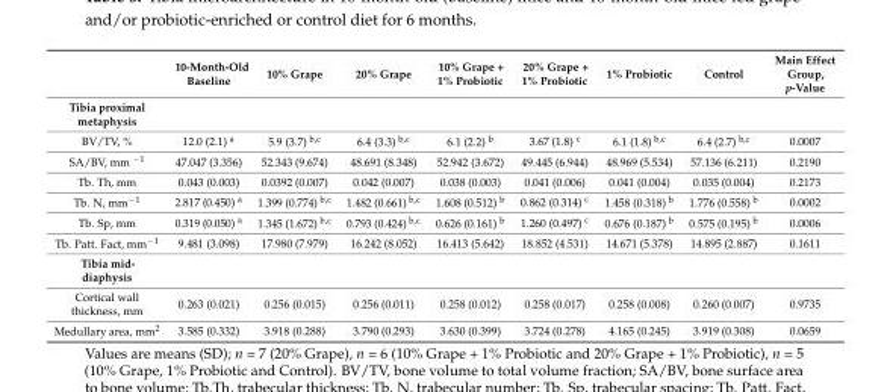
<table><thead><tr><td></td><td>10-Month-Old Baseline</td><td>10% Grape</td><td>20% Grape</td><td>10% Grape + 1% Probiotic</td><td>20% Grape + 1% Probiotic</td><td>1% Probiotic</td><td>Control</td><td>Main Effect Group, p-Value</td></tr></thead><tbody><tr><td colspan="9">Tibia proximal metaphysis</td></tr><tr><td>BV/TV, %</td><td>12.0 (2.1) <sup>a</sup></td><td>5.9 (3.7) <sup>b,c</sup></td><td>6.4 (3.3) <sup>b,c</sup></td><td>6.1 (2.2) <sup>b</sup></td><td>3.67 (1.8) <sup>c</sup></td><td>6.1 (1.8) <sup>b,c</sup></td><td>6.4 (2.7) <sup>b,c</sup></td><td>0.0007</td></tr><tr><td>SA/BV, mm <sup>−1</sup></td><td>47.047 (3.356)</td><td>52.343 (9.674)</td><td>48.691 (8.348)</td><td>52.942 (3.672)</td><td>49.445 (6.944)</td><td>48.969 (5.534)</td><td>57.136 (6.211)</td><td>0.2190</td></tr><tr><td>Tb. Th, mm</td><td>0.043 (0.003)</td><td>0.0392 (0.007)</td><td>0.042 (0.007)</td><td>0.038 (0.003)</td><td>0.041 (0.006)</td><td>0.041 (0.004)</td><td>0.035 (0.004)</td><td>0.2173</td></tr><tr><td>Tb. N, mm<sup>−1</sup></td><td>2.817 (0.450) <sup>a</sup></td><td>1.399 (0.774) <sup>b,c</sup></td><td>1.482 (0.661) <sup>b,c</sup></td><td>1.608 (0.512) <sup>b</sup></td><td>0.862 (0.314) <sup>c</sup></td><td>1.458 (0.318) <sup>b</sup></td><td>1.776 (0.558) <sup>b</sup></td><td>0.0002</td></tr><tr><td>Tb. Sp, mm</td><td>0.319 (0.050) <sup>a</sup></td><td>1.345 (1.672) <sup>b,c</sup></td><td>0.793 (0.424) <sup>b,c</sup></td><td>0.626 (0.161) <sup>b</sup></td><td>1.260 (0.497) <sup>c</sup></td><td>0.676 (0.187) <sup>b</sup></td><td>0.575 (0.195) <sup>b</sup></td><td>0.0006</td></tr><tr><td>Tb. Patt. Fact, mm<sup>−1</sup></td><td>9.481 (3.098)</td><td>17.980 (7.979)</td><td>16.242 (8.052)</td><td>16.413 (5.642)</td><td>18.852 (4.531)</td><td>14.671 (5.378)</td><td>14.895 (2.887)</td><td>0.1611</td></tr><tr><td colspan="9">Tibia mid- diaphysis</td></tr><tr><td>Cortical wall thickness, mm</td><td>0.263 (0.021)</td><td>0.256 (0.015)</td><td>0.256 (0.011)</td><td>0.258 (0.012)</td><td>0.258 (0.017)</td><td>0.258 (0.008)</td><td>0.260 (0.007)</td><td>0.9735</td></tr><tr><td>Medullary area, mm<sup>2</sup></td><td>3.585 (0.332)</td><td>3.918 (0.288)</td><td>3.790 (0.293)</td><td>3.630 (0.399)</td><td>3.724 (0.278)</td><td>4.165 (0.245)</td><td>3.919 (0.308)</td><td>0.0659</td></tr></tbody></table>